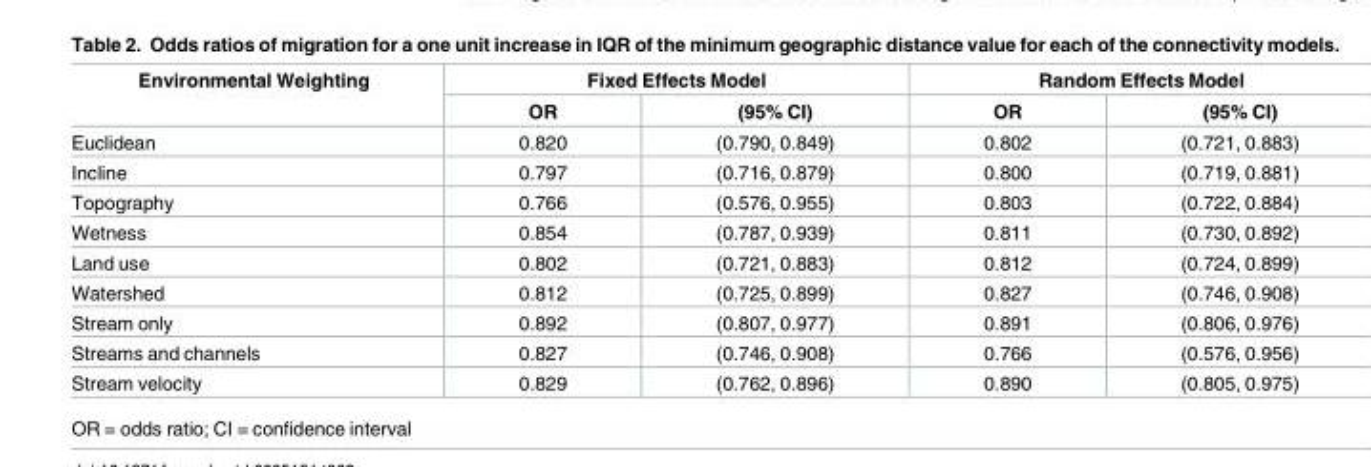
<table><thead><tr><td rowspan="2">Environmental Weighting</td><td colspan="2">Fixed Effects Model</td><td colspan="2">Random Effects Model</td></tr><tr><td>OR</td><td>(95% CI)</td><td>OR</td><td>(95% CI)</td></tr></thead><tbody><tr><td>Euclidean</td><td>0.820</td><td>(0.790, 0.849)</td><td>0.802</td><td>(0.721, 0.883)</td></tr><tr><td>Incline</td><td>0.797</td><td>(0.716, 0.879)</td><td>0.800</td><td>(0.719, 0.881)</td></tr><tr><td>Topography</td><td>0.766</td><td>(0.576, 0.955)</td><td>0.803</td><td>(0.722, 0.884)</td></tr><tr><td>Wetness</td><td>0.854</td><td>(0.787, 0.939)</td><td>0.811</td><td>(0.730, 0.892)</td></tr><tr><td>Land use</td><td>0.802</td><td>(0.721, 0.883)</td><td>0.812</td><td>(0.724, 0.899)</td></tr><tr><td>Watershed</td><td>0.812</td><td>(0.725, 0.899)</td><td>0.827</td><td>(0.746, 0.908)</td></tr><tr><td>Stream only</td><td>0.892</td><td>(0.807, 0.977)</td><td>0.891</td><td>(0.806, 0.976)</td></tr><tr><td>Streams and channels</td><td>0.827</td><td>(0.746, 0.908)</td><td>0.766</td><td>(0.576, 0.956)</td></tr><tr><td>Stream velocity</td><td>0.829</td><td>(0.762, 0.896)</td><td>0.890</td><td>(0.805, 0.975)</td></tr></tbody></table>